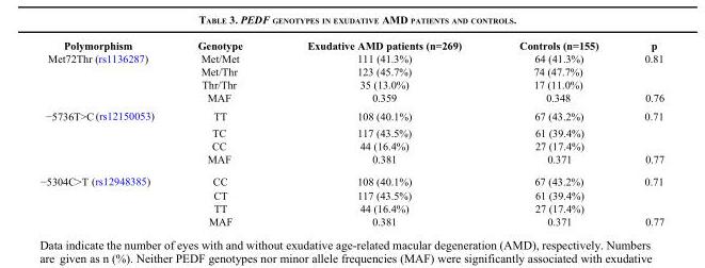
<table><thead><tr><td>Polymorphism</td><td>Genotype</td><td>Exudative AMD patients (n=269)</td><td>Controls (n=155)</td><td>p</td></tr></thead><tbody><tr><td rowspan="4">Met72Thr (rs1136287)</td><td>Met/Met</td><td>111 (41.3%)</td><td>64 (41.3%)</td><td>0.81</td></tr><tr><td>Met/Thr</td><td>123 (45.7%)</td><td>74 (47.7%)</td><td></td></tr><tr><td>Thr/Thr</td><td>35 (13.0%)</td><td>17 (11.0%)</td><td></td></tr><tr><td>MAF</td><td>0.359</td><td>0.348</td><td>0.76</td></tr><tr><td rowspan="4">−5736T&gt;C (rs12150053)</td><td>TT</td><td>108 (40.1%)</td><td>67 (43.2%)</td><td>0.71</td></tr><tr><td>TC</td><td>117 (43.5%)</td><td>61 (39.4%)</td><td></td></tr><tr><td>CC</td><td>44 (16.4%)</td><td>27 (17.4%)</td><td></td></tr><tr><td>MAF</td><td>0.381</td><td>0.371</td><td>0.77</td></tr><tr><td rowspan="4">−5304C&gt;T (rs12948385)</td><td>CC</td><td>108 (40.1%)</td><td>67 (43.2%)</td><td>0.71</td></tr><tr><td>CT</td><td>117 (43.5%)</td><td>61 (39.4%)</td><td></td></tr><tr><td>TT</td><td>44 (16.4%)</td><td>27 (17.4%)</td><td></td></tr><tr><td>MAF</td><td>0.381</td><td>0.371</td><td>0.77</td></tr></tbody></table>